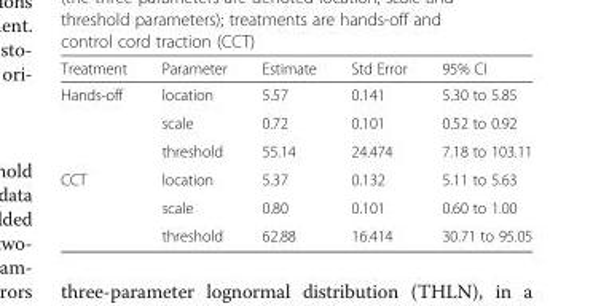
<table><thead><tr><td>Treatment</td><td>Parameter</td><td>Estimate</td><td>Std Error</td><td>95% CI</td></tr></thead><tbody><tr><td rowspan="3">Hands-off</td><td>location</td><td>5.57</td><td>0.141</td><td>5.30 to 5.85</td></tr><tr><td>scale</td><td>0.72</td><td>0.101</td><td>0.52 to 0.92</td></tr><tr><td>threshold</td><td>55.14</td><td>24.474</td><td>7.18 to 103.11</td></tr><tr><td rowspan="3">CCT</td><td>location</td><td>5.37</td><td>0.132</td><td>5.11 to 5.63</td></tr><tr><td>scale</td><td>0.80</td><td>0.101</td><td>0.60 to 1.00</td></tr><tr><td>threshold</td><td>62.88</td><td>16.414</td><td>30.71 to 95.05</td></tr></tbody></table>